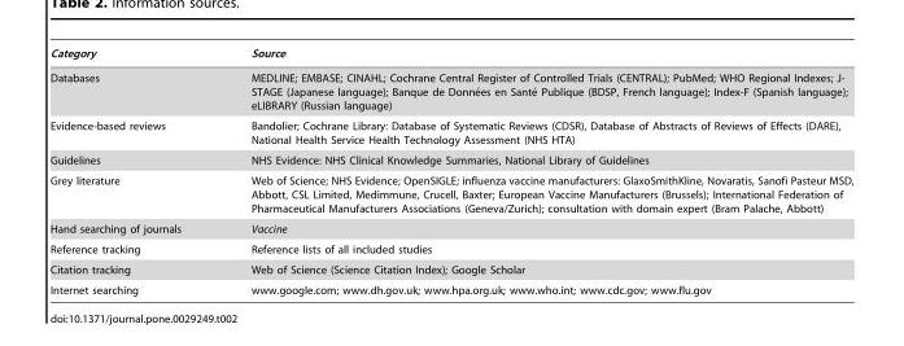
<table><thead><tr><td>Category</td><td>Source</td></tr></thead><tbody><tr><td>Databases</td><td>MEDLINE; EMBASE; CINAHL; Cochrane Central Register of Controlled Trials (CENTRAL); PubMed; WHO Regional Indexes; J- STAGE (Japanese language); Banque de Donne´es en Sante´ Publique (BDSP, French language); Index-F (Spanish language); eLIBRARY (Russian language)</td></tr><tr><td>Evidence-based reviews</td><td>Bandolier; Cochrane Library: Database of Systematic Reviews (CDSR), Database of Abstracts of Reviews of Effects (DARE), National Health Service Health Technology Assessment (NHS HTA)</td></tr><tr><td>Guidelines</td><td>NHS Evidence: NHS Clinical Knowledge Summaries, National Library of Guidelines</td></tr><tr><td>Grey literature</td><td>Web of Science; NHS Evidence; OpenSIGLE; influenza vaccine manufacturers: GlaxoSmithKline, Novaratis, Sanofi Pasteur MSD, Abbott, CSL Limited, Medimmune, Crucell, Baxter; European Vaccine Manufacturers (Brussels); International Federation of Pharmaceutical Manufacturers Associations (Geneva/Zurich); consultation with domain expert (Bram Palache, Abbott)</td></tr><tr><td>Hand searching of journals</td><td>Vaccine</td></tr><tr><td>Reference tracking</td><td>Reference lists of all included studies</td></tr><tr><td>Citation tracking</td><td>Web of Science (Science Citation Index); Google Scholar</td></tr><tr><td>Internet searching</td><td>www.google.com; www.dh.gov.uk; www.hpa.org.uk; www.who.int; www.cdc.gov; www.flu.gov</td></tr></tbody></table>